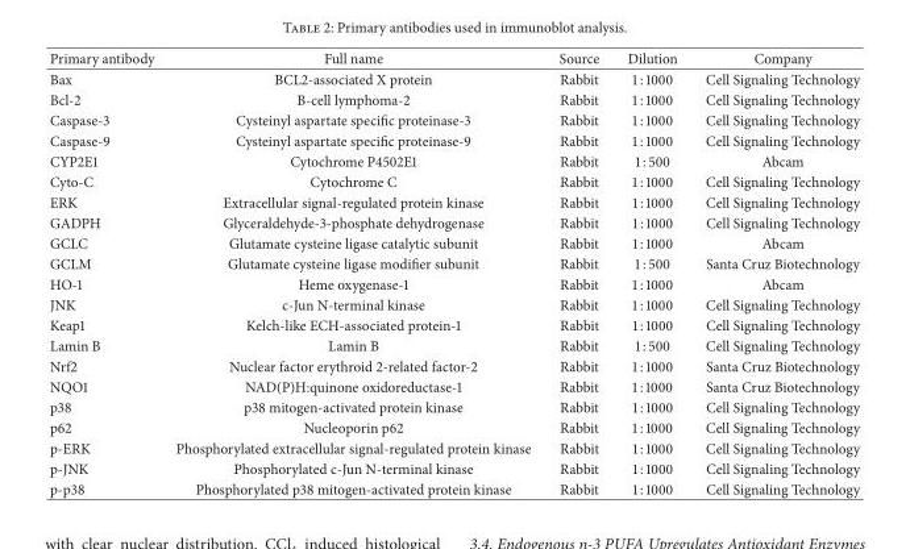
<table><thead><tr><td>Primary antibody</td><td>Full name</td><td>Source</td><td>Dilution</td><td>Company</td></tr></thead><tbody><tr><td>Bax</td><td>BCL2-associated X protein</td><td>Rabbit</td><td>1 : 1000</td><td>Cell Signaling Technology</td></tr><tr><td>Bcl-2</td><td>B-cell lymphoma-2</td><td>Rabbit</td><td>1 : 1000</td><td>Cell Signaling Technology</td></tr><tr><td>Caspase-3</td><td>Cysteinyl aspartate specific proteinase-3</td><td>Rabbit</td><td>1 : 1000</td><td>Cell Signaling Technology</td></tr><tr><td>Caspase-9</td><td>Cysteinyl aspartate specific proteinase-9</td><td>Rabbit</td><td>1 : 1000</td><td>Cell Signaling Technology</td></tr><tr><td>CYP2E1</td><td>Cytochrome P4502E1</td><td>Rabbit</td><td>1 : 500</td><td>Abcam</td></tr><tr><td>Cyto-C</td><td>Cytochrome C</td><td>Rabbit</td><td>1 : 1000</td><td>Cell Signaling Technology</td></tr><tr><td>ERK</td><td>Extracellular signal-regulated protein kinase</td><td>Rabbit</td><td>1 : 1000</td><td>Cell Signaling Technology</td></tr><tr><td>GADPH</td><td>Glyceraldehyde-3-phosphate dehydrogenase</td><td>Rabbit</td><td>1 : 1000</td><td>Cell Signaling Technology</td></tr><tr><td>GCLC</td><td>Glutamate cysteine ligase catalytic subunit</td><td>Rabbit</td><td>1 : 1000</td><td>Abcam</td></tr><tr><td>GCLM</td><td>Glutamate cysteine ligase modifier subunit</td><td>Rabbit</td><td>1 : 500</td><td>Santa Cruz Biotechnology</td></tr><tr><td>HO-1</td><td>Heme oxygenase-1</td><td>Rabbit</td><td>1 : 1000</td><td>Abcam</td></tr><tr><td>JNK</td><td>c-Jun N-terminal kinase</td><td>Rabbit</td><td>1 : 1000</td><td>Cell Signaling Technology</td></tr><tr><td>Keap1</td><td>Kelch-like ECH-associated protein-1</td><td>Rabbit</td><td>1 : 1000</td><td>Cell Signaling Technology</td></tr><tr><td>Lamin B</td><td>Lamin B</td><td>Rabbit</td><td>1 : 500</td><td>Cell Signaling Technology</td></tr><tr><td>Nrf2</td><td>Nuclear factor erythroid 2-related factor-2</td><td>Rabbit</td><td>1 : 1000</td><td>Santa Cruz Biotechnology</td></tr><tr><td>NQO1</td><td>NAD(P)H:quinone oxidoreductase-1</td><td>Rabbit</td><td>1 : 1000</td><td>Santa Cruz Biotechnology</td></tr><tr><td>p38</td><td>p38 mitogen-activated protein kinase</td><td>Rabbit</td><td>1 : 1000</td><td>Cell Signaling Technology</td></tr><tr><td>p62</td><td>Nucleoporin p62</td><td>Rabbit</td><td>1 : 1000</td><td>Cell Signaling Technology</td></tr><tr><td>p-ERK</td><td>Phosphorylated extracellular signal-regulated protein kinase</td><td>Rabbit</td><td>1 : 1000</td><td>Cell Signaling Technology</td></tr><tr><td>p-JNK</td><td>Phosphorylated c-Jun N-terminal kinase</td><td>Rabbit</td><td>1 : 1000</td><td>Cell Signaling Technology</td></tr><tr><td>p-p38</td><td>Phosphorylated p38 mitogen-activated protein kinase</td><td>Rabbit</td><td>1 : 1000</td><td>Cell Signaling Technology</td></tr></tbody></table>